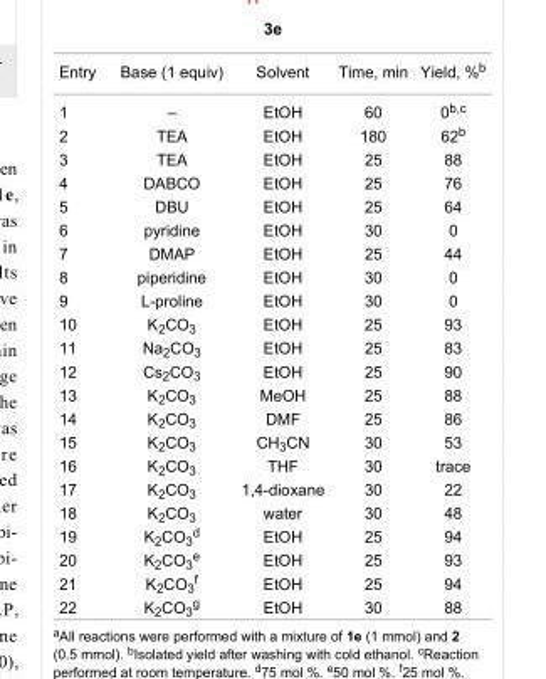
<table><tbody><tr><td>Entry</td><td>Base (1 equiv)</td><td>Solvent</td><td>Time, min</td><td>Yield, %<sup>b</sup></td></tr><tr><td>1</td><td>–</td><td>EtOH</td><td>60</td><td>0<sup>b,c</sup></td></tr><tr><td>2</td><td>TEA</td><td>EtOH</td><td>180</td><td>62<sup>b</sup></td></tr><tr><td>3</td><td>TEA</td><td>EtOH</td><td>25</td><td>88</td></tr><tr><td>4</td><td>DABCO</td><td>EtOH</td><td>25</td><td>76</td></tr><tr><td>5</td><td>DBU</td><td>EtOH</td><td>25</td><td>64</td></tr><tr><td>6</td><td>pyridine</td><td>EtOH</td><td>30</td><td>0</td></tr><tr><td>7</td><td>DMAP</td><td>EtOH</td><td>25</td><td>44</td></tr><tr><td>8</td><td>piperidine</td><td>EtOH</td><td>30</td><td>0</td></tr><tr><td>9</td><td>L-proline</td><td>EtOH</td><td>30</td><td>0</td></tr><tr><td>10</td><td>K<sub>2</sub>CO<sub>3</sub></td><td>EtOH</td><td>25</td><td>93</td></tr><tr><td>11</td><td>Na<sub>2</sub>CO<sub>3</sub></td><td>EtOH</td><td>25</td><td>83</td></tr><tr><td>12</td><td>Cs<sub>2</sub>CO<sub>3</sub></td><td>EtOH</td><td>25</td><td>90</td></tr><tr><td>13</td><td>K<sub>2</sub>CO<sub>3</sub></td><td>MeOH</td><td>25</td><td>88</td></tr><tr><td>14</td><td>K<sub>2</sub>CO<sub>3</sub></td><td>DMF</td><td>25</td><td>86</td></tr><tr><td>15</td><td>K<sub>2</sub>CO<sub>3</sub></td><td>CH<sub>3</sub>CN</td><td>30</td><td>53</td></tr><tr><td>16</td><td>K<sub>2</sub>CO<sub>3</sub></td><td>THF</td><td>30</td><td>trace</td></tr><tr><td>17</td><td>K<sub>2</sub>CO<sub>3</sub></td><td>1,4-dioxane</td><td>30</td><td>22</td></tr><tr><td>18</td><td>K<sub>2</sub>CO<sub>3</sub></td><td>water</td><td>30</td><td>48</td></tr><tr><td>19</td><td>K<sub>2</sub>CO<sub>3</sub><sup>d</sup></td><td>EtOH</td><td>25</td><td>94</td></tr><tr><td>20</td><td>K<sub>2</sub>CO<sub>3</sub><sup>e</sup></td><td>EtOH</td><td>25</td><td>93</td></tr><tr><td>21</td><td>K<sub>2</sub>CO<sub>3</sub><sup>f</sup></td><td>EtOH</td><td>25</td><td>94</td></tr><tr><td>22</td><td>K<sub>2</sub>CO<sub>3</sub><sup>g</sup></td><td>EtOH</td><td>30</td><td>88</td></tr></tbody></table>